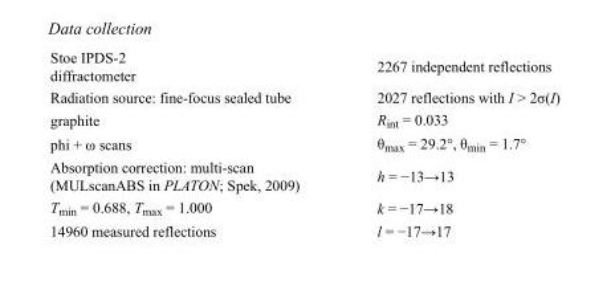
<table><tbody><tr><td>Stoe IPDS-2 diffractometer</td><td>2267 independent reflections</td></tr><tr><td>Radiation source: fine-focus sealed tube</td><td>2027 reflections with I &gt; 2σ(I)</td></tr><tr><td>graphite</td><td>R<sub>int</sub> = 0.033</td></tr><tr><td>phi + ω scans</td><td>θ<sub>max</sub> = 29.2°, θ<sub>min</sub> = 1.7°</td></tr><tr><td>Absorption correction: multi-scan (MULscanABS in PLATON; Spek, 2009)</td><td>h = −13→13</td></tr><tr><td>T<sub>min</sub> = 0.688, T<sub>max</sub> = 1.000</td><td>k = −17→18</td></tr><tr><td>14960 measured reflections</td><td>l = −17→17</td></tr></tbody></table>